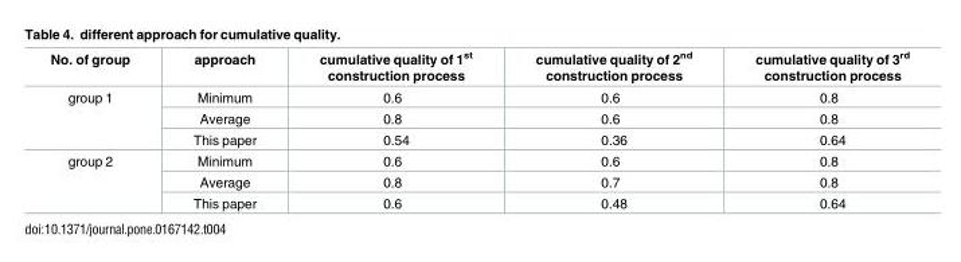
<table><thead><tr><td>No. of group</td><td>approach</td><td>cumulative quality of 1<sup>st</sup> construction process</td><td>cumulative quality of 2<sup>nd</sup> construction process</td><td>cumulative quality of 3<sup>rd</sup> construction process</td></tr></thead><tbody><tr><td rowspan="3">group 1</td><td>Minimum</td><td>0.6</td><td>0.6</td><td>0.8</td></tr><tr><td>Average</td><td>0.8</td><td>0.6</td><td>0.8</td></tr><tr><td>This paper</td><td>0.54</td><td>0.36</td><td>0.64</td></tr><tr><td rowspan="3">group 2</td><td>Minimum</td><td>0.6</td><td>0.6</td><td>0.8</td></tr><tr><td>Average</td><td>0.8</td><td>0.7</td><td>0.8</td></tr><tr><td>This paper</td><td>0.6</td><td>0.48</td><td>0.64</td></tr></tbody></table>